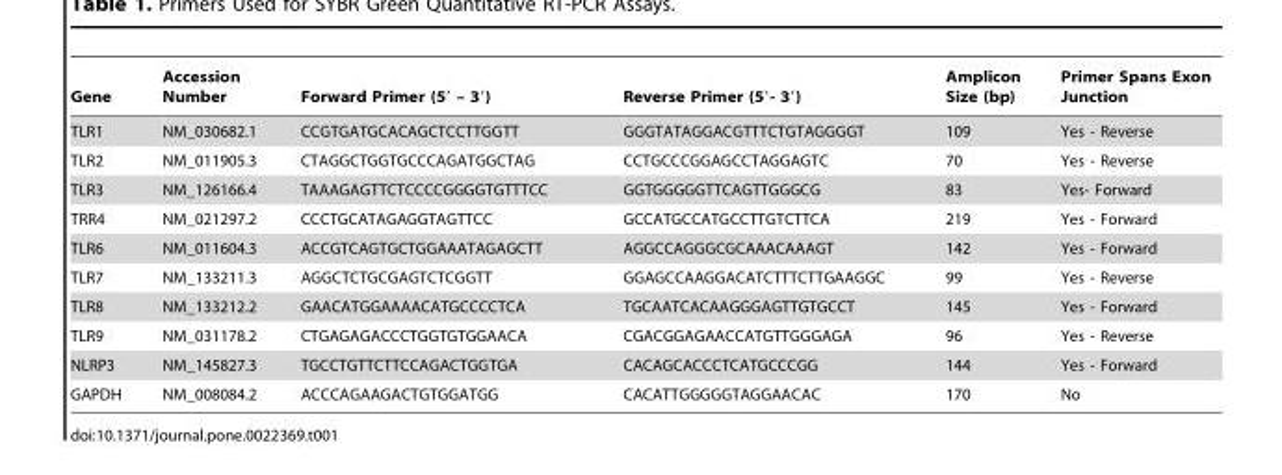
<table><thead><tr><td>Gene</td><td>Accession Number</td><td>Forward Primer (5′ – 3′)</td><td>Reverse Primer (5′- 3′)</td><td>Amplicon Size (bp)</td><td>Primer Spans Exon Junction</td></tr></thead><tbody><tr><td>TLR1</td><td>NM_030682.1</td><td>CCGTGATGCACAGCTCCTTGGTT</td><td>GGGTATAGGACGTTTCTGTAGGGGT</td><td>109</td><td>Yes - Reverse</td></tr><tr><td>TLR2</td><td>NM_011905.3</td><td>CTAGGCTGGTGCCCAGATGGCTAG</td><td>CCTGCCCGGAGCCTAGGAGTC</td><td>70</td><td>Yes - Reverse</td></tr><tr><td>TLR3</td><td>NM_126166.4</td><td>TAAAGAGTTCTCCCCGGGGTGTTTCC</td><td>GGTGGGGGTTCAGTTGGGCG</td><td>83</td><td>Yes- Forward</td></tr><tr><td>TRR4</td><td>NM_021297.2</td><td>CCCTGCATAGAGGTAGTTCC</td><td>GCCATGCCATGCCTTGTCTTCA</td><td>219</td><td>Yes - Forward</td></tr><tr><td>TLR6</td><td>NM_011604.3</td><td>ACCGTCAGTGCTGGAAATAGAGCTT</td><td>AGGCCAGGGCGCAAACAAAGT</td><td>142</td><td>Yes - Forward</td></tr><tr><td>TLR7</td><td>NM_133211.3</td><td>AGGCTCTGCGAGTCTCGGTT</td><td>GGAGCCAAGGACATCTTTCTTGAAGGC</td><td>99</td><td>Yes - Reverse</td></tr><tr><td>TLR8</td><td>NM_133212.2</td><td>GAACATGGAAAACATGCCCCTCA</td><td>TGCAATCACAAGGGAGTTGTGCCT</td><td>145</td><td>Yes - Forward</td></tr><tr><td>TLR9</td><td>NM_031178.2</td><td>CTGAGAGACCCTGGTGTGGAACA</td><td>CGACGGAGAACCATGTTGGGAGA</td><td>96</td><td>Yes - Reverse</td></tr><tr><td>NLRP3</td><td>NM_145827.3</td><td>TGCCTGTTCTTCCAGACTGGTGA</td><td>CACAGCACCCTCATGCCCGG</td><td>144</td><td>Yes - Forward</td></tr><tr><td>GAPDH</td><td>NM_008084.2</td><td>ACCCAGAAGACTGTGGATGG</td><td>CACATTGGGGGTAGGAACAC</td><td>170</td><td>No</td></tr></tbody></table>